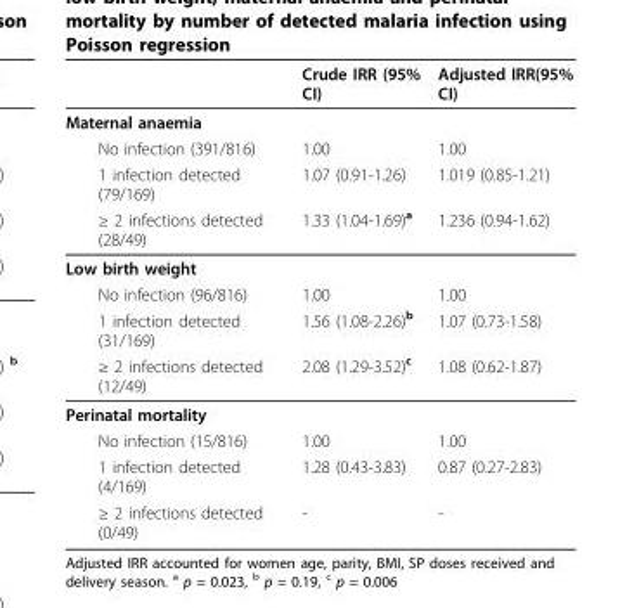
<table><thead><tr><td></td><td>Crude IRR (95% CI)</td><td>Adjusted IRR(95% CI)</td></tr></thead><tbody><tr><td colspan="3">Maternal anaemia</td></tr><tr><td>No infection (391/816)</td><td>1.00</td><td>1.00</td></tr><tr><td>1 infection detected (79/169)</td><td>1.07 (0.91-1.26)</td><td>1.019 (0.85-1.21)</td></tr><tr><td>≥ 2 infections detected (28/49)</td><td>1.33 (1.04-1.69)<sup>a</sup></td><td>1.236 (0.94-1.62)</td></tr><tr><td colspan="3">Low birth weight</td></tr><tr><td>No infection (96/816)</td><td>1.00</td><td>1.00</td></tr><tr><td>1 infection detected (31/169)</td><td>1.56 (1.08-2.26)<sup>b</sup></td><td>1.07 (0.73-1.58)</td></tr><tr><td>≥ 2 infections detected (12/49)</td><td>2.08 (1.29-3.52)<sup>c</sup></td><td>1.08 (0.62-1.87)</td></tr><tr><td colspan="3">Perinatal mortality</td></tr><tr><td>No infection (15/816)</td><td>1.00</td><td>1.00</td></tr><tr><td>1 infection detected (4/169)</td><td>1.28 (0.43-3.83)</td><td>0.87 (0.27-2.83)</td></tr><tr><td>≥ 2 infections detected (0/49)</td><td>-</td><td>-</td></tr></tbody></table>